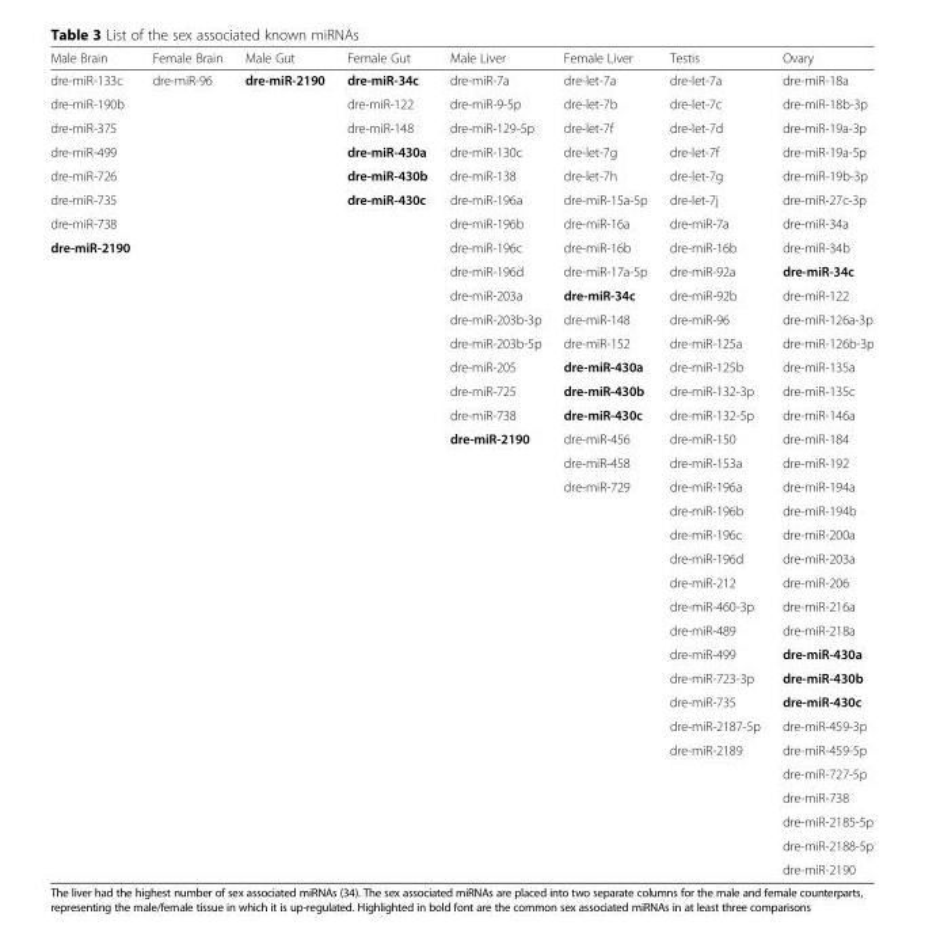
<table><thead><tr><td>Male Brain</td><td>Female Brain</td><td>Male Gut</td><td>Female Gut</td><td>Male Liver</td><td>Female Liver</td><td>Testis</td><td>Ovary</td></tr></thead><tbody><tr><td>dre-miR-133c</td><td>dre-miR-96</td><td>dre-miR-2190</td><td>dre-miR-34c</td><td>dre-miR-7a</td><td>dre-let-7a</td><td>dre-let-7a</td><td>dre-miR-18a</td></tr><tr><td>dre-miR-190b</td><td></td><td></td><td>dre-miR-122</td><td>dre-miR-9-5p</td><td>dre-let-7b</td><td>dre-let-7c</td><td>dre-miR-18b-3p</td></tr><tr><td>dre-miR-375</td><td></td><td></td><td>dre-miR-148</td><td>dre-miR-129-5p</td><td>dre-let-7f</td><td>dre-let-7d</td><td>dre-miR-19a-3p</td></tr><tr><td>dre-miR-499</td><td></td><td></td><td>dre-miR-430a</td><td>dre-miR-130c</td><td>dre-let-7g</td><td>dre-let-7f</td><td>dre-miR-19a-5p</td></tr><tr><td>dre-miR-726</td><td></td><td></td><td>dre-miR-430b</td><td>dre-miR-138</td><td>dre-let-7h</td><td>dre-let-7g</td><td>dre-miR-19b-3p</td></tr><tr><td>dre-miR-735</td><td></td><td></td><td>dre-miR-430c</td><td>dre-miR-196a</td><td>dre-miR-15a-5p</td><td>dre-let-7j</td><td>dre-miR-27c-3p</td></tr><tr><td>dre-miR-738</td><td></td><td></td><td></td><td>dre-miR-196b</td><td>dre-miR-16a</td><td>dre-miR-7a</td><td>dre-miR-34a</td></tr><tr><td rowspan="27">dre-miR-2190</td><td></td><td></td><td></td><td>dre-miR-196c</td><td>dre-miR-16b</td><td>dre-miR-16b</td><td>dre-miR-34b</td></tr><tr><td></td><td></td><td></td><td>dre-miR-196d</td><td>dre-miR-17a-5p</td><td>dre-miR-92a</td><td>dre-miR-34c</td></tr><tr><td></td><td></td><td></td><td>dre-miR-203a</td><td>dre-miR-34c</td><td>dre-miR-92b</td><td>dre-miR-122</td></tr><tr><td></td><td></td><td></td><td>dre-miR-203b-3p</td><td>dre-miR-148</td><td>dre-miR-96</td><td>dre-miR-126a-3p</td></tr><tr><td></td><td></td><td></td><td>dre-miR-203b-5p</td><td>dre-miR-152</td><td>dre-miR-125a</td><td>dre-miR-126b-3p</td></tr><tr><td></td><td></td><td></td><td>dre-miR-205</td><td>dre-miR-430a</td><td>dre-miR-125b</td><td>dre-miR-135a</td></tr><tr><td></td><td></td><td></td><td>dre-miR-725</td><td>dre-miR-430b</td><td>dre-miR-132-3p</td><td>dre-miR-135c</td></tr><tr><td></td><td></td><td></td><td>dre-miR-738</td><td>dre-miR-430c</td><td>dre-miR-132-5p</td><td>dre-miR-146a</td></tr><tr><td></td><td></td><td></td><td>dre-miR-2190</td><td>dre-miR-456</td><td>dre-miR-150</td><td>dre-miR-184</td></tr><tr><td></td><td></td><td></td><td></td><td>dre-miR-458</td><td>dre-miR-153a</td><td>dre-miR-192</td></tr><tr><td></td><td></td><td></td><td></td><td>dre-miR-729</td><td>dre-miR-196a</td><td>dre-miR-194a</td></tr><tr><td></td><td></td><td></td><td></td><td></td><td>dre-miR-196b</td><td>dre-miR-194b</td></tr><tr><td></td><td></td><td></td><td></td><td></td><td>dre-miR-196c</td><td>dre-miR-200a</td></tr><tr><td></td><td></td><td></td><td></td><td></td><td>dre-miR-196d</td><td>dre-miR-203a</td></tr><tr><td></td><td></td><td></td><td></td><td></td><td>dre-miR-212</td><td>dre-miR-206</td></tr><tr><td></td><td></td><td></td><td></td><td></td><td>dre-miR-460-3p</td><td>dre-miR-216a</td></tr><tr><td></td><td></td><td></td><td></td><td></td><td>dre-miR-489</td><td>dre-miR-218a</td></tr><tr><td></td><td></td><td></td><td></td><td></td><td>dre-miR-499</td><td>dre-miR-430a</td></tr><tr><td></td><td></td><td></td><td></td><td></td><td>dre-miR-723-3p</td><td>dre-miR-430b</td></tr><tr><td></td><td></td><td></td><td></td><td></td><td>dre-miR-735</td><td>dre-miR-430c</td></tr><tr><td></td><td></td><td></td><td></td><td></td><td>dre-miR-2187-5p</td><td>dre-miR-459-3p</td></tr><tr><td></td><td></td><td></td><td></td><td></td><td>dre-miR-2189</td><td>dre-miR-459-5p</td></tr><tr><td></td><td></td><td></td><td></td><td></td><td></td><td>dre-miR-727-5p</td></tr><tr><td></td><td></td><td></td><td></td><td></td><td></td><td>dre-miR-738</td></tr><tr><td></td><td></td><td></td><td></td><td></td><td></td><td>dre-miR-2185-5p</td></tr><tr><td></td><td></td><td></td><td></td><td></td><td></td><td>dre-miR-2188-5p</td></tr><tr><td></td><td></td><td></td><td></td><td></td><td></td><td>dre-miR-2190</td></tr></tbody></table>